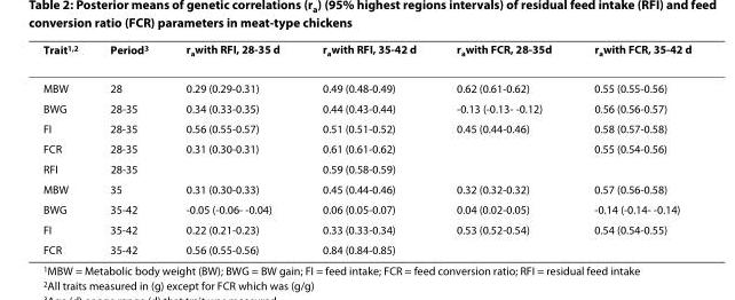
<table><thead><tr><td>Trait<sup>1,2</sup></td><td>Period<sup>3</sup></td><td>r<sub>a</sub>with RFI, 28-35 d</td><td>r<sub>a</sub>with RFI, 35-42 d</td><td>r<sub>a</sub>with FCR, 28-35d</td><td>r<sub>a</sub>with FCR, 35-42 d</td></tr></thead><tbody><tr><td>MBW</td><td>28</td><td>0.29 (0.29-0.31)</td><td>0.49 (0.48-0.49)</td><td>0.62 (0.61-0.62)</td><td>0.55 (0.55-0.56)</td></tr><tr><td>BWG</td><td>28-35</td><td>0.34 (0.33-0.35)</td><td>0.44 (0.43-0.44)</td><td>-0.13 (-0.13- -0.12)</td><td>0.56 (0.56-0.57)</td></tr><tr><td>FI</td><td>28-35</td><td>0.56 (0.55-0.57)</td><td>0.51 (0.51-0.52)</td><td>0.45 (0.44-0.46)</td><td>0.58 (0.57-0.58)</td></tr><tr><td>FCR</td><td>28-35</td><td>0.31 (0.30-0.31)</td><td>0.61 (0.61-0.62)</td><td></td><td>0.55 (0.54-0.56)</td></tr><tr><td>RFI</td><td>28-35</td><td></td><td>0.59 (0.58-0.59)</td><td></td><td></td></tr><tr><td>MBW</td><td>35</td><td>0.31 (0.30-0.33)</td><td>0.45 (0.44-0.46)</td><td>0.32 (0.32-0.32)</td><td>0.57 (0.56-0.58)</td></tr><tr><td>BWG</td><td>35-42</td><td>-0.05 (-0.06- -0.04)</td><td>0.06 (0.05-0.07)</td><td>0.04 (0.02-0.05)</td><td>-0.14 (-0.14- -0.14)</td></tr><tr><td>FI</td><td>35-42</td><td>0.22 (0.21-0.23)</td><td>0.33 (0.33-0.34)</td><td>0.53 (0.52-0.54)</td><td>0.54 (0.54-0.55)</td></tr><tr><td>FCR</td><td>35-42</td><td>0.56 (0.55-0.56)</td><td>0.84 (0.84-0.85)</td><td></td><td></td></tr></tbody></table>